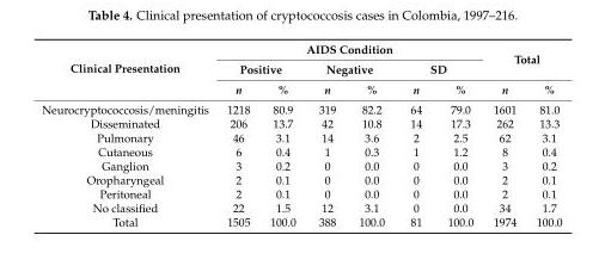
<table><thead><tr><td rowspan="3">Clinical Presentation</td><td colspan="6">AIDS Condition</td><td rowspan="2" colspan="2">Total</td></tr><tr><td colspan="2">Positive</td><td colspan="2">Negative</td><td colspan="2">SD</td></tr><tr><td>n</td><td>%</td><td>n</td><td>%</td><td>n</td><td>%</td><td>n</td><td>%</td></tr></thead><tbody><tr><td>Neurocryptococcosis/meningitis</td><td>1218</td><td>80.9</td><td>319</td><td>82.2</td><td>64</td><td>79.0</td><td>1601</td><td>81.0</td></tr><tr><td>Disseminated</td><td>206</td><td>13.7</td><td>42</td><td>10.8</td><td>14</td><td>17.3</td><td>262</td><td>13.3</td></tr><tr><td>Pulmonary</td><td>46</td><td>3.1</td><td>14</td><td>3.6</td><td>2</td><td>2.5</td><td>62</td><td>3.1</td></tr><tr><td>Cutaneous</td><td>6</td><td>0.4</td><td>1</td><td>0.3</td><td>1</td><td>1.2</td><td>8</td><td>0.4</td></tr><tr><td>Ganglion</td><td>3</td><td>0.2</td><td>0</td><td>0.0</td><td>0</td><td>0.0</td><td>3</td><td>0.2</td></tr><tr><td>Oropharyngeal</td><td>2</td><td>0.1</td><td>0</td><td>0.0</td><td>0</td><td>0.0</td><td>2</td><td>0.1</td></tr><tr><td>Peritoneal</td><td>2</td><td>0.1</td><td>0</td><td>0.0</td><td>0</td><td>0.0</td><td>2</td><td>0.1</td></tr><tr><td>No classified</td><td>22</td><td>1.5</td><td>12</td><td>3.1</td><td>0</td><td>0.0</td><td>34</td><td>1.7</td></tr><tr><td>Total</td><td>1505</td><td>100.0</td><td>388</td><td>100.0</td><td>81</td><td>100.0</td><td>1974</td><td>100.0</td></tr></tbody></table>